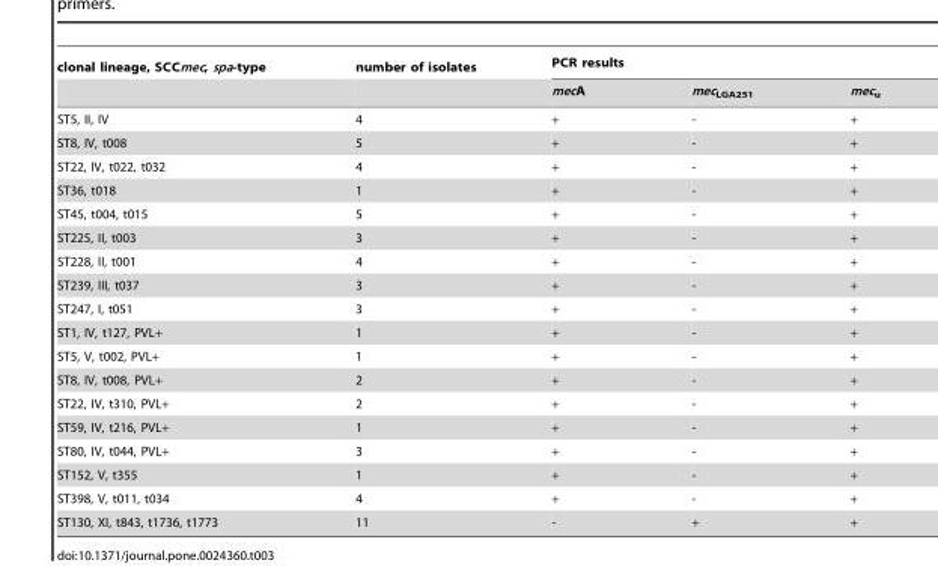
<table><thead><tr><td rowspan="2">clonal lineage, SCCmec, spa-type</td><td rowspan="2">number of isolates</td><td colspan="3">PCR results</td></tr><tr><td>mecA</td><td>mec<sub>LGA251</sub></td><td>mec<sub>u</sub></td></tr></thead><tbody><tr><td>ST5, II, IV</td><td>4</td><td>+</td><td>-</td><td>+</td></tr><tr><td>ST8, IV, t008</td><td>5</td><td>+</td><td>-</td><td>+</td></tr><tr><td>ST22, IV, t022, t032</td><td>4</td><td>+</td><td>-</td><td>+</td></tr><tr><td>ST36, t018</td><td>1</td><td>+</td><td>-</td><td>+</td></tr><tr><td>ST45, t004, t015</td><td>5</td><td>+</td><td>-</td><td>+</td></tr><tr><td>ST225, II, t003</td><td>3</td><td>+</td><td>-</td><td>+</td></tr><tr><td>ST228, II, t001</td><td>4</td><td>+</td><td>-</td><td>+</td></tr><tr><td>ST239, III, t037</td><td>3</td><td>+</td><td>-</td><td>+</td></tr><tr><td>ST247, I, t051</td><td>3</td><td>+</td><td>-</td><td>+</td></tr><tr><td>ST1, IV, t127, PVL+</td><td>1</td><td>+</td><td>-</td><td>+</td></tr><tr><td>ST5, V, t002, PVL+</td><td>1</td><td>+</td><td>-</td><td>+</td></tr><tr><td>ST8, IV, t008, PVL+</td><td>2</td><td>+</td><td>-</td><td>+</td></tr><tr><td>ST22, IV, t310, PVL+</td><td>2</td><td>+</td><td>-</td><td>+</td></tr><tr><td>ST59, IV, t216, PVL+</td><td>1</td><td>+</td><td>-</td><td>+</td></tr><tr><td>ST80, IV, t044, PVL+</td><td>3</td><td>+</td><td>-</td><td>+</td></tr><tr><td>ST152, V, t355</td><td>1</td><td>+</td><td>-</td><td>+</td></tr><tr><td>ST398, V, t011, t034</td><td>4</td><td>+</td><td>-</td><td>+</td></tr><tr><td>ST130, XI, t843, t1736, t1773</td><td>11</td><td>-</td><td>+</td><td>+</td></tr></tbody></table>